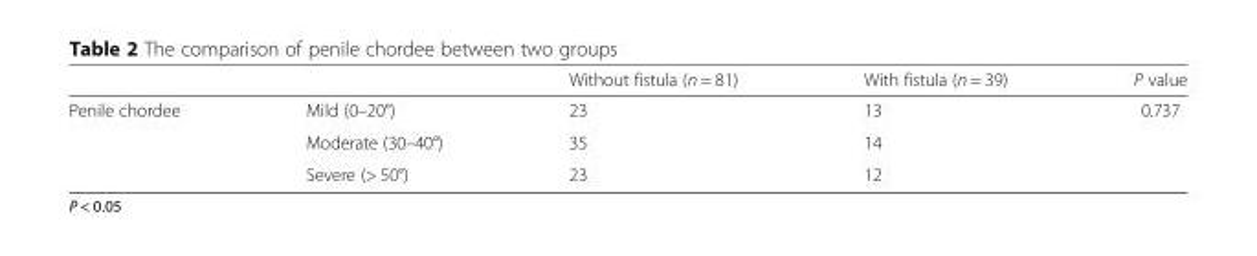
<table><thead><tr><td></td><td></td><td>Without fistula (n = 81)</td><td>With fistula (n = 39)</td><td>P value</td></tr></thead><tbody><tr><td rowspan="3">Penile chordee</td><td>Mild (0–20°)</td><td>23</td><td>13</td><td rowspan="3">0.737</td></tr><tr><td>Moderate (30–40°)</td><td>35</td><td>14</td></tr><tr><td>Severe (&gt; 50°)</td><td>23</td><td>12</td></tr></tbody></table>